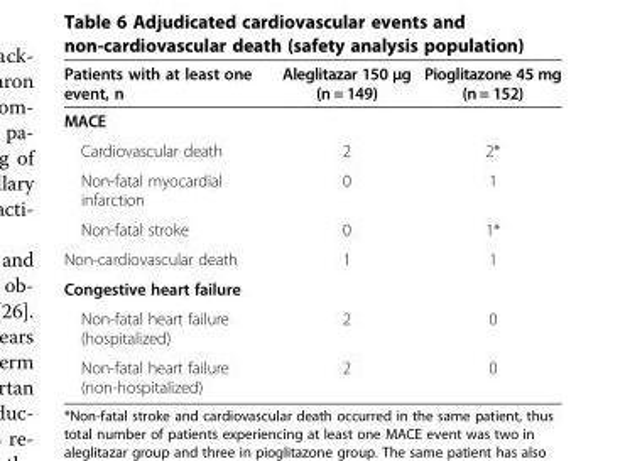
<table><thead><tr><td>Patients with at least one event, n</td><td>Aleglitazar 150 μg (n = 149)</td><td>Pioglitazone 45 mg (n = 152)</td></tr></thead><tbody><tr><td colspan="3">MACE</td></tr><tr><td>Cardiovascular death</td><td>2</td><td>2*</td></tr><tr><td>Non-fatal myocardial infarction</td><td>0</td><td>1</td></tr><tr><td>Non-fatal stroke</td><td>0</td><td>1*</td></tr><tr><td>Non-cardiovascular death</td><td>1</td><td>1</td></tr><tr><td colspan="3">Congestive heart failure</td></tr><tr><td>Non-fatal heart failure (hospitalized)</td><td>2</td><td>0</td></tr><tr><td>Non-fatal heart failure (non-hospitalized)</td><td>2</td><td>0</td></tr></tbody></table>